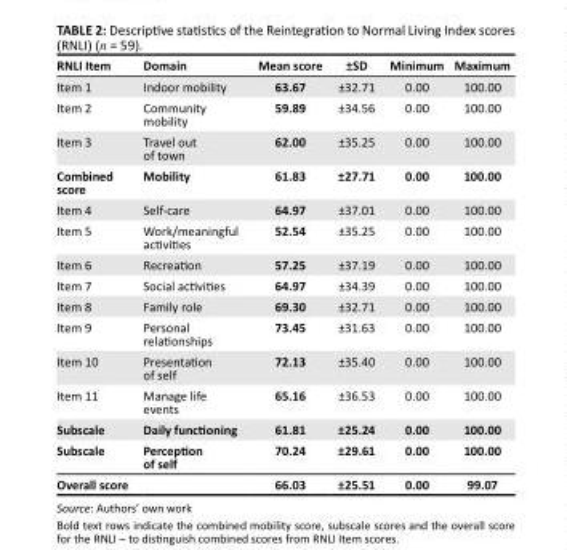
<table><thead><tr><td>RNLI Item</td><td>Domain</td><td>Mean score</td><td>±SD</td><td>Minimum</td><td>Maximum</td></tr></thead><tbody><tr><td>Item 1</td><td>Indoor mobility</td><td>63.67</td><td>±32.71</td><td>0.00</td><td>100.00</td></tr><tr><td>Item 2</td><td>Community mobility</td><td>59.89</td><td>±34.56</td><td>0.00</td><td>100.00</td></tr><tr><td>Item 3</td><td>Travel out of town</td><td>62.00</td><td>±35.25</td><td>0.00</td><td>100.00</td></tr><tr><td>Combined score</td><td>Mobility</td><td>61.83</td><td>±27.71</td><td>0.00</td><td>100.00</td></tr><tr><td>Item 4</td><td>Self-care</td><td>64.97</td><td>±37.01</td><td>0.00</td><td>100.00</td></tr><tr><td>Item 5</td><td>Work/meaningful activities</td><td>52.54</td><td>±35.25</td><td>0.00</td><td>100.00</td></tr><tr><td>Item 6</td><td>Recreation</td><td>57.25</td><td>±37.19</td><td>0.00</td><td>100.00</td></tr><tr><td>Item 7</td><td>Social activities</td><td>64.97</td><td>±34.39</td><td>0.00</td><td>100.00</td></tr><tr><td>Item 8</td><td>Family role</td><td>69.30</td><td>±32.71</td><td>0.00</td><td>100.00</td></tr><tr><td>Item 9</td><td>Personal relationships</td><td>73.45</td><td>±31.63</td><td>0.00</td><td>100.00</td></tr><tr><td>Item 10</td><td>Presentation of self</td><td>72.13</td><td>±35.40</td><td>0.00</td><td>100.00</td></tr><tr><td>Item 11</td><td>Manage life events</td><td>65.16</td><td>±36.53</td><td>0.00</td><td>100.00</td></tr><tr><td>Subscale</td><td>Daily functioning</td><td>61.81</td><td>±25.24</td><td>0.00</td><td>100.00</td></tr><tr><td>Subscale</td><td>Perception of self</td><td>70.24</td><td>±29.61</td><td>0.00</td><td>100.00</td></tr><tr><td>Overall score</td><td></td><td>66.03</td><td>±25.51</td><td>0.00</td><td>99.07</td></tr></tbody></table>